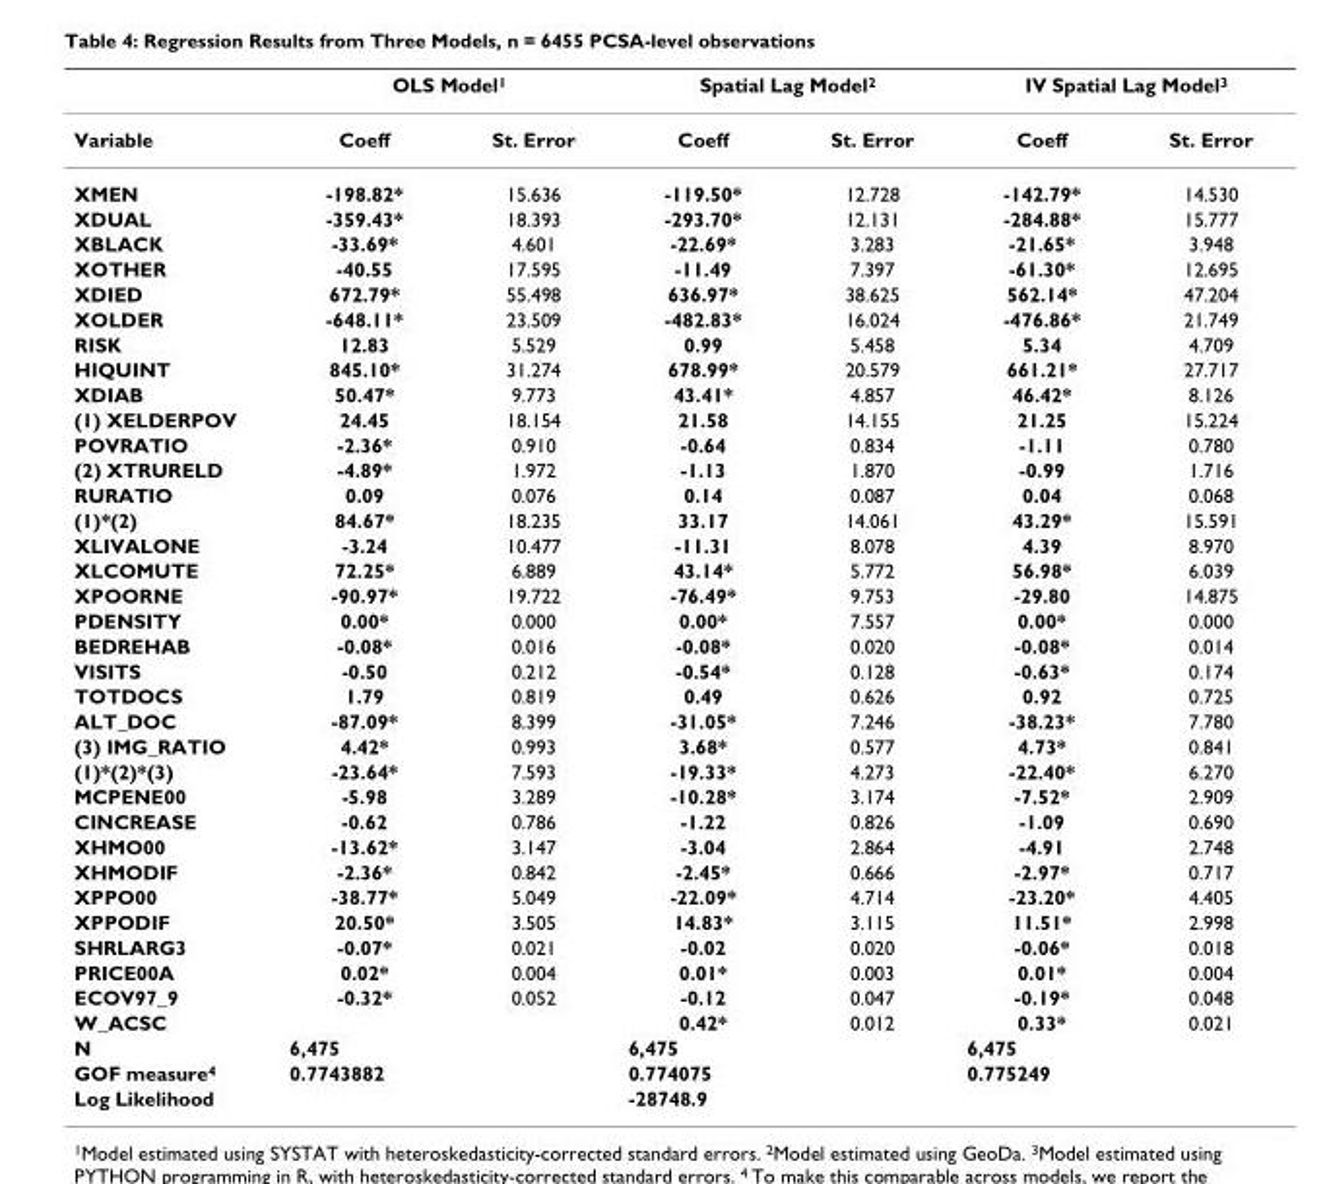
<table><thead><tr><td rowspan="2">Variable</td><td colspan="2">OLS Model<sup>1</sup></td><td colspan="2">Spatial Lag Model<sup>2</sup></td><td colspan="2">IV Spatial Lag Model<sup>3</sup></td></tr><tr><td>Coeff</td><td>St. Error</td><td>Coeff</td><td>St. Error</td><td>Coeff</td><td>St. Error</td></tr></thead><tbody><tr><td>XMEN</td><td>-198.82*</td><td>15.636</td><td>-119.50*</td><td>12.728</td><td>-142.79*</td><td>14.530</td></tr><tr><td>XDUAL</td><td>-359.43*</td><td>18.393</td><td>-293.70*</td><td>12.131</td><td>-284.88*</td><td>15.777</td></tr><tr><td>XBLACK</td><td>-33.69*</td><td>4.601</td><td>-22.69*</td><td>3.283</td><td>-21.65*</td><td>3.948</td></tr><tr><td>XOTHER</td><td>-40.55</td><td>17.595</td><td>-11.49</td><td>7.397</td><td>-61.30*</td><td>12.695</td></tr><tr><td>XDIED</td><td>672.79*</td><td>55.498</td><td>636.97*</td><td>38.625</td><td>562.14*</td><td>47.204</td></tr><tr><td>XOLDER</td><td>-648.11*</td><td>23.509</td><td>-482.83*</td><td>16.024</td><td>-476.86*</td><td>21.749</td></tr><tr><td>RISK</td><td>12.83</td><td>5.529</td><td>0.99</td><td>5.458</td><td>5.34</td><td>4.709</td></tr><tr><td>HIQUINT</td><td>845.10*</td><td>31.274</td><td>678.99*</td><td>20.579</td><td>661.21*</td><td>27.717</td></tr><tr><td>XDIAB</td><td>50.47*</td><td>9.773</td><td>43.41*</td><td>4.857</td><td>46.42*</td><td>8.126</td></tr><tr><td>(1) XELDERPOV</td><td>24.45</td><td>18.154</td><td>21.58</td><td>14.155</td><td>21.25</td><td>15.224</td></tr><tr><td>POVRATIO</td><td>-2.36*</td><td>0.910</td><td>-0.64</td><td>0.834</td><td>-1.11</td><td>0.780</td></tr><tr><td>(2) XTRURELD</td><td>-4.89*</td><td>1.972</td><td>-1.13</td><td>1.870</td><td>-0.99</td><td>1.716</td></tr><tr><td>RURATIO</td><td>0.09</td><td>0.076</td><td>0.14</td><td>0.087</td><td>0.04</td><td>0.068</td></tr><tr><td>(1)*(2)</td><td>84.67*</td><td>18.235</td><td>33.17</td><td>14.061</td><td>43.29*</td><td>15.591</td></tr><tr><td>XLIVALONE</td><td>-3.24</td><td>10.477</td><td>-11.31</td><td>8.078</td><td>4.39</td><td>8.970</td></tr><tr><td>XLCOMUTE</td><td>72.25*</td><td>6.889</td><td>43.14*</td><td>5.772</td><td>56.98*</td><td>6.039</td></tr><tr><td>XPOORNE</td><td>-90.97*</td><td>19.722</td><td>-76.49*</td><td>9.753</td><td>-29.80</td><td>14.875</td></tr><tr><td>PDENSITY</td><td>0.00*</td><td>0.000</td><td>0.00*</td><td>7.557</td><td>0.00*</td><td>0.000</td></tr><tr><td>BEDREHAB</td><td>-0.08*</td><td>0.016</td><td>-0.08*</td><td>0.020</td><td>-0.08*</td><td>0.014</td></tr><tr><td>VISITS</td><td>-0.50</td><td>0.212</td><td>-0.54*</td><td>0.128</td><td>-0.63*</td><td>0.174</td></tr><tr><td>TOTDOCS</td><td>1.79</td><td>0.819</td><td>0.49</td><td>0.626</td><td>0.92</td><td>0.725</td></tr><tr><td>ALT_DOC</td><td>-87.09*</td><td>8.399</td><td>-31.05*</td><td>7.246</td><td>-38.23*</td><td>7.780</td></tr><tr><td>(3) IMG_RATIO</td><td>4.42*</td><td>0.993</td><td>3.68*</td><td>0.577</td><td>4.73*</td><td>0.841</td></tr><tr><td>(1)*(2)*(3)</td><td>-23.64*</td><td>7.593</td><td>-19.33*</td><td>4.273</td><td>-22.40*</td><td>6.270</td></tr><tr><td>MCPENE00</td><td>-5.98</td><td>3.289</td><td>-10.28*</td><td>3.174</td><td>-7.52*</td><td>2.909</td></tr><tr><td>CINCREASE</td><td>-0.62</td><td>0.786</td><td>-1.22</td><td>0.826</td><td>-1.09</td><td>0.690</td></tr><tr><td>XHMO00</td><td>-13.62*</td><td>3.147</td><td>-3.04</td><td>2.864</td><td>-4.91</td><td>2.748</td></tr><tr><td>XHMODIF</td><td>-2.36*</td><td>0.842</td><td>-2.45*</td><td>0.666</td><td>-2.97*</td><td>0.717</td></tr><tr><td>XPPO00</td><td>-38.77*</td><td>5.049</td><td>-22.09*</td><td>4.714</td><td>-23.20*</td><td>4.405</td></tr><tr><td>XPPODIF</td><td>20.50*</td><td>3.505</td><td>14.83*</td><td>3.115</td><td>11.51*</td><td>2.998</td></tr><tr><td>SHRLARG3</td><td>-0.07*</td><td>0.021</td><td>-0.02</td><td>0.020</td><td>-0.06*</td><td>0.018</td></tr><tr><td>PRICE00A</td><td>0.02*</td><td>0.004</td><td>0.01*</td><td>0.003</td><td>0.01*</td><td>0.004</td></tr><tr><td>ECOV97_9</td><td>-0.32*</td><td>0.052</td><td>-0.12</td><td>0.047</td><td>-0.19*</td><td>0.048</td></tr><tr><td>W_ACSC</td><td></td><td></td><td>0.42*</td><td>0.012</td><td>0.33*</td><td>0.021</td></tr><tr><td>N</td><td colspan="2">6,475</td><td colspan="2">6,475</td><td colspan="2">6,475</td></tr><tr><td>GOF measure<sup>4</sup></td><td colspan="2">0.7743882</td><td colspan="2">0.774075</td><td colspan="2">0.775249</td></tr><tr><td>Log Likelihood</td><td></td><td></td><td colspan="2">-28748.9</td><td></td><td></td></tr></tbody></table>